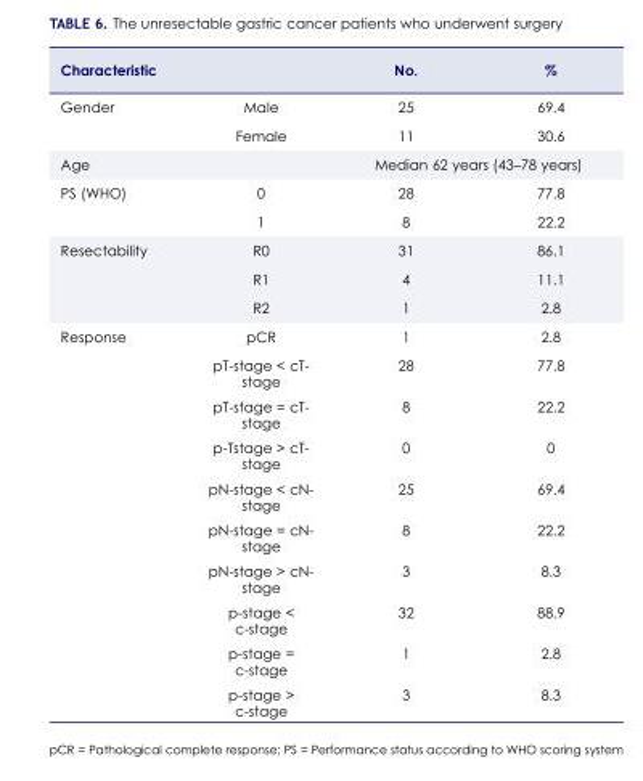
<table><thead><tr><td>Characteristic</td><td></td><td>No.</td><td>%</td></tr></thead><tbody><tr><td rowspan="2">Gender</td><td>Male</td><td>25</td><td>69.4</td></tr><tr><td>Female</td><td>11</td><td>30.6</td></tr><tr><td>Age</td><td></td><td colspan="2">Median 62 years (43–78 years)</td></tr><tr><td rowspan="2">PS (WHO)</td><td>0</td><td>28</td><td>77.8</td></tr><tr><td>1</td><td>8</td><td>22.2</td></tr><tr><td rowspan="3">Resectability</td><td>R0</td><td>31</td><td>86.1</td></tr><tr><td>R1</td><td>4</td><td>11.1</td></tr><tr><td>R2</td><td>1</td><td>2.8</td></tr><tr><td rowspan="10">Response</td><td>pCR</td><td>1</td><td>2.8</td></tr><tr><td>pT-stage &lt; cT- stage</td><td>28</td><td>77.8</td></tr><tr><td>pT-stage = cT- stage</td><td>8</td><td>22.2</td></tr><tr><td>p-Tstage &gt; cT- stage</td><td>0</td><td>0</td></tr><tr><td>pN-stage &lt; cN- stage</td><td>25</td><td>69.4</td></tr><tr><td>pN-stage = cN- stage</td><td>8</td><td>22.2</td></tr><tr><td>pN-stage &gt; cN- stage</td><td>3</td><td>8.3</td></tr><tr><td>p-stage &lt; c-stage</td><td>32</td><td>88.9</td></tr><tr><td>p-stage = c-stage</td><td>1</td><td>2.8</td></tr><tr><td>p-stage &gt; c-stage</td><td>3</td><td>8.3</td></tr></tbody></table>